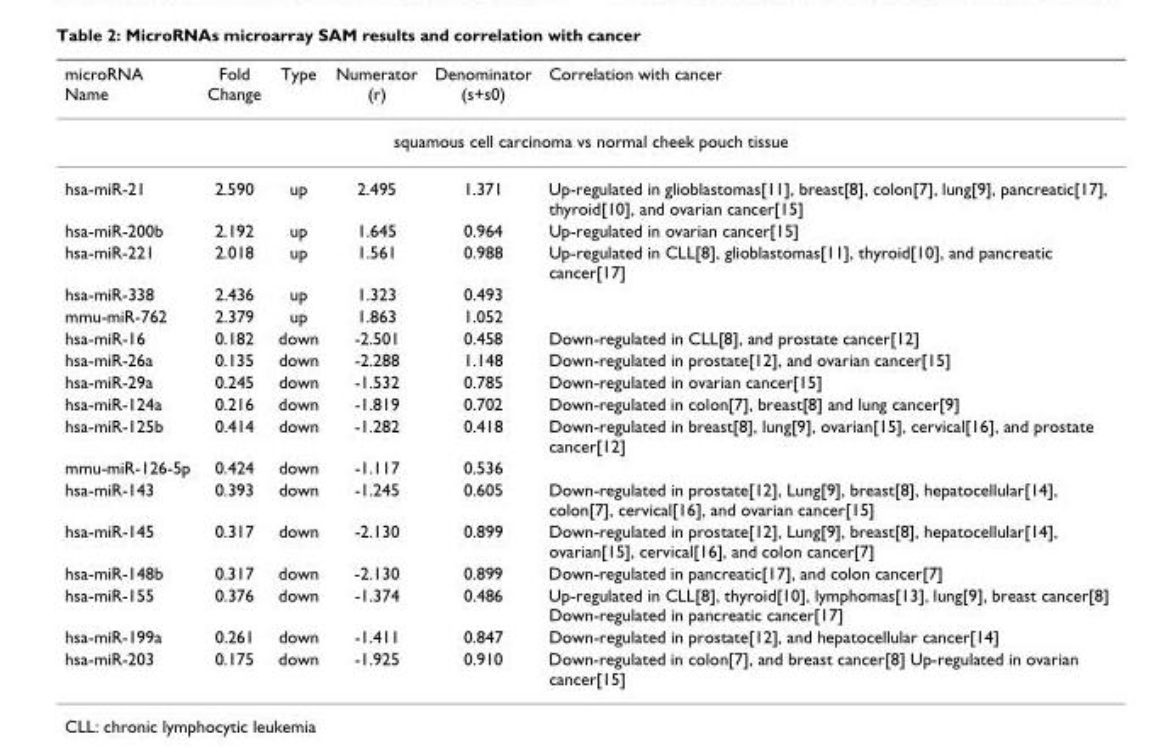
<table><thead><tr><td>microRNA Name</td><td>Fold Change</td><td>Type</td><td>Numerator (r)</td><td>Denominator (s+s0)</td><td>Correlation with cancer</td></tr></thead><tbody><tr><td colspan="6">squamous cell carcinoma vs normal cheek pouch tissue</td></tr><tr><td>hsa-miR-21</td><td>2.590</td><td>up</td><td>2.495</td><td>1.371</td><td>Up-regulated in glioblastomas[11], breast[8], colon[7], lung[9], pancreatic[17], thyroid[10], and ovarian cancer[15]</td></tr><tr><td>hsa-miR-200b</td><td>2.192</td><td>up</td><td>1.645</td><td>0.964</td><td>Up-regulated in ovarian cancer[15]</td></tr><tr><td>hsa-miR-221</td><td>2.018</td><td>up</td><td>1.561</td><td>0.988</td><td>Up-regulated in CLL[8], glioblastomas[11], thyroid[10], and pancreatic cancer[17]</td></tr><tr><td>hsa-miR-338</td><td>2.436</td><td>up</td><td>1.323</td><td>0.493</td><td></td></tr><tr><td>mmu-miR-762</td><td>2.379</td><td>up</td><td>1.863</td><td>1.052</td><td></td></tr><tr><td>hsa-miR-16</td><td>0.182</td><td>down</td><td>-2.501</td><td>0.458</td><td>Down-regulated in CLL[8], and prostate cancer[12]</td></tr><tr><td>hsa-miR-26a</td><td>0.135</td><td>down</td><td>-2.288</td><td>1.148</td><td>Down-regulated in prostate[12], and ovarian cancer[15]</td></tr><tr><td>hsa-miR-29a</td><td>0.245</td><td>down</td><td>-1.532</td><td>0.785</td><td>Down-regulated in ovarian cancer[15]</td></tr><tr><td>hsa-miR-124a</td><td>0.216</td><td>down</td><td>-1.819</td><td>0.702</td><td>Down-regulated in colon[7], breast[8] and lung cancer[9]</td></tr><tr><td>hsa-miR-125b</td><td>0.414</td><td>down</td><td>-1.282</td><td>0.418</td><td>Down-regulated in breast[8], lung[9], ovarian[15], cervical[16], and prostate cancer[12]</td></tr><tr><td>mmu-miR-126-5p</td><td>0.424</td><td>down</td><td>-1.117</td><td>0.536</td><td></td></tr><tr><td>hsa-miR-143</td><td>0.393</td><td>down</td><td>-1.245</td><td>0.605</td><td>Down-regulated in prostate[12], Lung[9], breast[8], hepatocellular[14], colon[7], cervical[16], and ovarian cancer[15]</td></tr><tr><td>hsa-miR-145</td><td>0.317</td><td>down</td><td>-2.130</td><td>0.899</td><td>Down-regulated in prostate[12], Lung[9], breast[8], hepatocellular[14], ovarian[15], cervical[16], and colon cancer[7]</td></tr><tr><td>hsa-miR-148b</td><td>0.317</td><td>down</td><td>-2.130</td><td>0.899</td><td>Down-regulated in pancreatic[17], and colon cancer[7]</td></tr><tr><td>hsa-miR-155</td><td>0.376</td><td>down</td><td>-1.374</td><td>0.486</td><td>Up-regulated in CLL[8], thyroid[10], lymphomas[13], lung[9], breast cancer[8] Down-regulated in pancreatic cancer[17]</td></tr><tr><td>hsa-miR-199a</td><td>0.261</td><td>down</td><td>-1.411</td><td>0.847</td><td>Down-regulated in prostate[12], and hepatocellular cancer[14]</td></tr><tr><td>hsa-miR-203</td><td>0.175</td><td>down</td><td>-1.925</td><td>0.910</td><td>Down-regulated in colon[7], and breast cancer[8] Up-regulated in ovarian cancer[15]</td></tr></tbody></table>